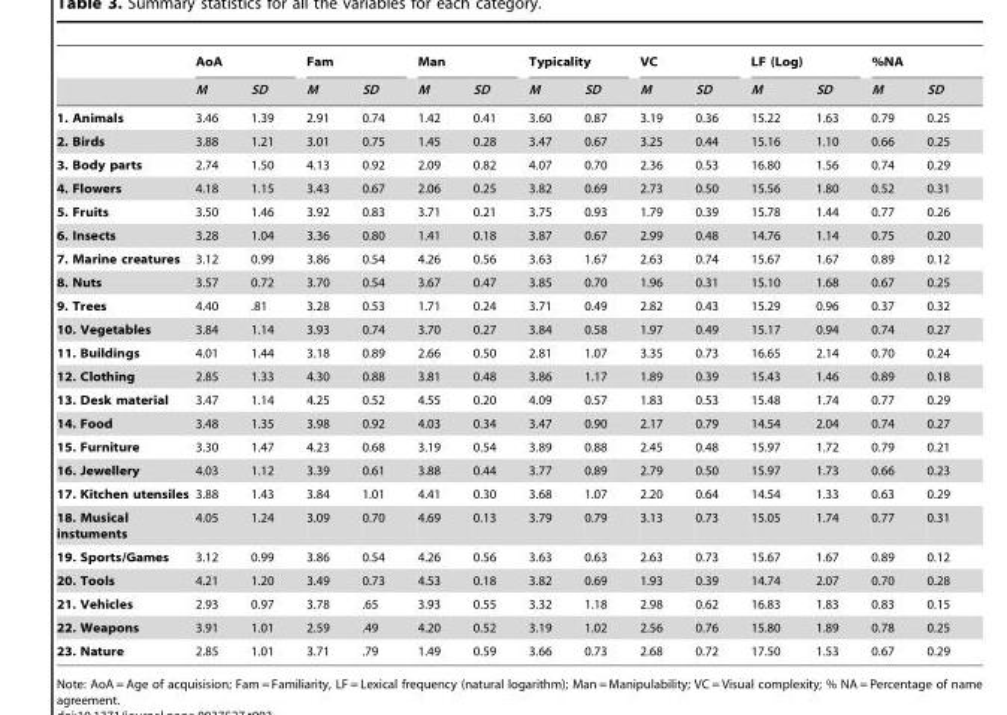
<table><thead><tr><td rowspan="2"></td><td colspan="2">AoA</td><td colspan="2">Fam</td><td colspan="2">Man</td><td colspan="2">Typicality</td><td colspan="2">VC</td><td colspan="2">LF (Log)</td><td colspan="2">%NA</td></tr><tr><td>M</td><td>SD</td><td>M</td><td>SD</td><td>M</td><td>SD</td><td>M</td><td>SD</td><td>M</td><td>SD</td><td>M</td><td>SD</td><td>M</td><td>SD</td></tr></thead><tbody><tr><td>1. Animals</td><td>3.46</td><td>1.39</td><td>2.91</td><td>0.74</td><td>1.42</td><td>0.41</td><td>3.60</td><td>0.87</td><td>3.19</td><td>0.36</td><td>15.22</td><td>1.63</td><td>0.79</td><td>0.25</td></tr><tr><td>2. Birds</td><td>3.88</td><td>1.21</td><td>3.01</td><td>0.75</td><td>1.45</td><td>0.28</td><td>3.47</td><td>0.67</td><td>3.25</td><td>0.44</td><td>15.16</td><td>1.10</td><td>0.66</td><td>0.25</td></tr><tr><td>3. Body parts</td><td>2.74</td><td>1.50</td><td>4.13</td><td>0.92</td><td>2.09</td><td>0.82</td><td>4.07</td><td>0.70</td><td>2.36</td><td>0.53</td><td>16.80</td><td>1.56</td><td>0.74</td><td>0.29</td></tr><tr><td>4. Flowers</td><td>4.18</td><td>1.15</td><td>3.43</td><td>0.67</td><td>2.06</td><td>0.25</td><td>3.82</td><td>0.69</td><td>2.73</td><td>0.50</td><td>15.56</td><td>1.80</td><td>0.52</td><td>0.31</td></tr><tr><td>5. Fruits</td><td>3.50</td><td>1.46</td><td>3.92</td><td>0.83</td><td>3.71</td><td>0.21</td><td>3.75</td><td>0.93</td><td>1.79</td><td>0.39</td><td>15.78</td><td>1.44</td><td>0.77</td><td>0.26</td></tr><tr><td>6. Insects</td><td>3.28</td><td>1.04</td><td>3.36</td><td>0.80</td><td>1.41</td><td>0.18</td><td>3.87</td><td>0.67</td><td>2.99</td><td>0.48</td><td>14.76</td><td>1.14</td><td>0.75</td><td>0.20</td></tr><tr><td>7. Marine creatures</td><td>3.12</td><td>0.99</td><td>3.86</td><td>0.54</td><td>4.26</td><td>0.56</td><td>3.63</td><td>1.67</td><td>2.63</td><td>0.74</td><td>15.67</td><td>1.67</td><td>0.89</td><td>0.12</td></tr><tr><td>8. Nuts</td><td>3.57</td><td>0.72</td><td>3.70</td><td>0.54</td><td>3.67</td><td>0.47</td><td>3.85</td><td>0.70</td><td>1.96</td><td>0.31</td><td>15.10</td><td>1.68</td><td>0.67</td><td>0.25</td></tr><tr><td>9. Trees</td><td>4.40</td><td>.81</td><td>3.28</td><td>0.53</td><td>1.71</td><td>0.24</td><td>3.71</td><td>0.49</td><td>2.82</td><td>0.43</td><td>15.29</td><td>0.96</td><td>0.37</td><td>0.32</td></tr><tr><td>10. Vegetables</td><td>3.84</td><td>1.14</td><td>3.93</td><td>0.74</td><td>3.70</td><td>0.27</td><td>3.84</td><td>0.58</td><td>1.97</td><td>0.49</td><td>15.17</td><td>0.94</td><td>0.74</td><td>0.27</td></tr><tr><td>11. Buildings</td><td>4.01</td><td>1.44</td><td>3.18</td><td>0.89</td><td>2.66</td><td>0.50</td><td>2.81</td><td>1.07</td><td>3.35</td><td>0.73</td><td>16.65</td><td>2.14</td><td>0.70</td><td>0.24</td></tr><tr><td>12. Clothing</td><td>2.85</td><td>1.33</td><td>4.30</td><td>0.88</td><td>3.81</td><td>0.48</td><td>3.86</td><td>1.17</td><td>1.89</td><td>0.39</td><td>15.43</td><td>1.46</td><td>0.89</td><td>0.18</td></tr><tr><td>13. Desk material</td><td>3.47</td><td>1.14</td><td>4.25</td><td>0.52</td><td>4.55</td><td>0.20</td><td>4.09</td><td>0.57</td><td>1.83</td><td>0.53</td><td>15.48</td><td>1.74</td><td>0.77</td><td>0.29</td></tr><tr><td>14. Food</td><td>3.48</td><td>1.35</td><td>3.98</td><td>0.92</td><td>4.03</td><td>0.34</td><td>3.47</td><td>0.90</td><td>2.17</td><td>0.79</td><td>14.54</td><td>2.04</td><td>0.74</td><td>0.27</td></tr><tr><td>15. Furniture</td><td>3.30</td><td>1.47</td><td>4.23</td><td>0.68</td><td>3.19</td><td>0.54</td><td>3.89</td><td>0.88</td><td>2.45</td><td>0.48</td><td>15.97</td><td>1.72</td><td>0.79</td><td>0.21</td></tr><tr><td>16. Jewellery</td><td>4.03</td><td>1.12</td><td>3.39</td><td>0.61</td><td>3.88</td><td>0.44</td><td>3.77</td><td>0.89</td><td>2.79</td><td>0.50</td><td>15.97</td><td>1.73</td><td>0.66</td><td>0.23</td></tr><tr><td>17. Kitchen utensiles</td><td>3.88</td><td>1.43</td><td>3.84</td><td>1.01</td><td>4.41</td><td>0.30</td><td>3.68</td><td>1.07</td><td>2.20</td><td>0.64</td><td>14.54</td><td>1.33</td><td>0.63</td><td>0.29</td></tr><tr><td>18. Musical instuments</td><td>4.05</td><td>1.24</td><td>3.09</td><td>0.70</td><td>4.69</td><td>0.13</td><td>3.79</td><td>0.79</td><td>3.13</td><td>0.73</td><td>15.05</td><td>1.74</td><td>0.77</td><td>0.31</td></tr><tr><td>19. Sports/Games</td><td>3.12</td><td>0.99</td><td>3.86</td><td>0.54</td><td>4.26</td><td>0.56</td><td>3.63</td><td>0.63</td><td>2.63</td><td>0.73</td><td>15.67</td><td>1.67</td><td>0.89</td><td>0.12</td></tr><tr><td>20. Tools</td><td>4.21</td><td>1.20</td><td>3.49</td><td>0.73</td><td>4.53</td><td>0.18</td><td>3.82</td><td>0.69</td><td>1.93</td><td>0.39</td><td>14.74</td><td>2.07</td><td>0.70</td><td>0.28</td></tr><tr><td>21. Vehicles</td><td>2.93</td><td>0.97</td><td>3.78</td><td>.65</td><td>3.93</td><td>0.55</td><td>3.32</td><td>1.18</td><td>2.98</td><td>0.62</td><td>16.83</td><td>1.83</td><td>0.83</td><td>0.15</td></tr><tr><td>22. Weapons</td><td>3.91</td><td>1.01</td><td>2.59</td><td>.49</td><td>4.20</td><td>0.52</td><td>3.19</td><td>1.02</td><td>2.56</td><td>0.76</td><td>15.80</td><td>1.89</td><td>0.78</td><td>0.25</td></tr><tr><td>23. Nature</td><td>2.85</td><td>1.01</td><td>3.71</td><td>.79</td><td>1.49</td><td>0.59</td><td>3.66</td><td>0.73</td><td>2.68</td><td>0.72</td><td>17.50</td><td>1.53</td><td>0.67</td><td>0.29</td></tr></tbody></table>